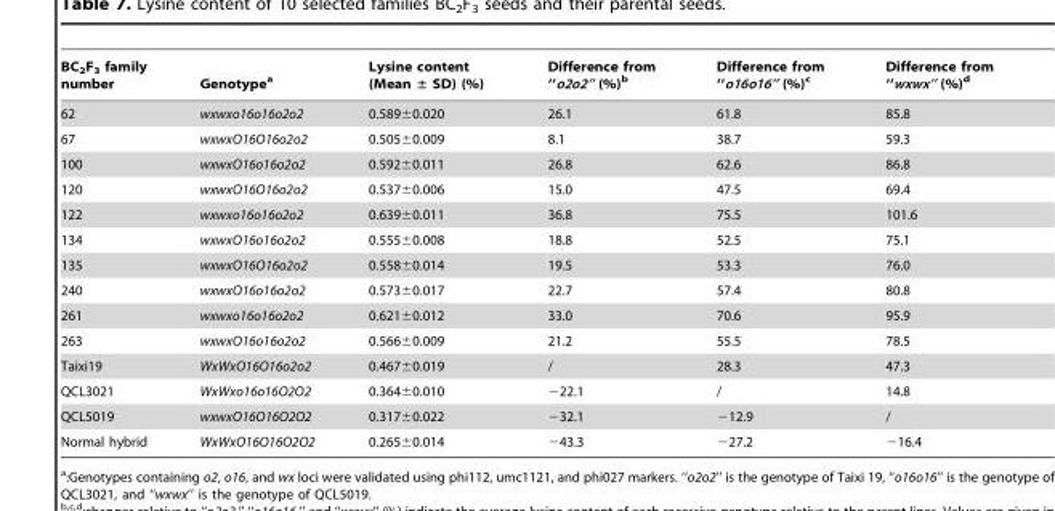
<table><thead><tr><td>BC<sub>2</sub>F<sub>3</sub> family number</td><td>Genotype<sup>a</sup></td><td>Lysine content (Mean ± SD) (%)</td><td>Difference from ‘‘o2o2’’ (%)b</td><td>Difference from ‘‘o16o16’’ (%)c</td><td>Difference from ‘‘wxwx’’ (%)d</td></tr></thead><tbody><tr><td>62</td><td>wxwxo16o16o2o2</td><td>0.589±0.020</td><td>26.1</td><td>61.8</td><td>85.8</td></tr><tr><td>67</td><td>wxwxO16O16o2o2</td><td>0.505±0.009</td><td>8.1</td><td>38.7</td><td>59.3</td></tr><tr><td>100</td><td>wxwxO16o16o2o2</td><td>0.592±0.011</td><td>26.8</td><td>62.6</td><td>86.8</td></tr><tr><td>120</td><td>wxwxO16O16o2o2</td><td>0.537±0.006</td><td>15.0</td><td>47.5</td><td>69.4</td></tr><tr><td>122</td><td>wxwxo16o16o2o2</td><td>0.639±0.011</td><td>36.8</td><td>75.5</td><td>101.6</td></tr><tr><td>134</td><td>wxwxO16o16o2o2</td><td>0.555±0.008</td><td>18.8</td><td>52.5</td><td>75.1</td></tr><tr><td>135</td><td>wxwxO16O16o2o2</td><td>0.558±0.014</td><td>19.5</td><td>53.3</td><td>76.0</td></tr><tr><td>240</td><td>wxwxO16o16o2o2</td><td>0.573±0.017</td><td>22.7</td><td>57.4</td><td>80.8</td></tr><tr><td>261</td><td>wxwxo16o16o2o2</td><td>0.621±0.012</td><td>33.0</td><td>70.6</td><td>95.9</td></tr><tr><td>263</td><td>wxwxO16o16o2o2</td><td>0.566±0.009</td><td>21.2</td><td>55.5</td><td>78.5</td></tr><tr><td>Taixi19</td><td>WxWxO16O16o2o2</td><td>0.467±0.019</td><td>/</td><td>28.3</td><td>47.3</td></tr><tr><td>QCL3021</td><td>WxWxo16o16O2O2</td><td>0.364±0.010</td><td>−22.1</td><td>/</td><td>14.8</td></tr><tr><td>QCL5019</td><td>wxwxO16O16O2O2</td><td>0.317±0.022</td><td>−32.1</td><td>−12.9</td><td>/</td></tr><tr><td>Normal hybrid</td><td>WxWxO16O16O2O2</td><td>0.265±0.014</td><td>−43.3</td><td>−27.2</td><td>−16.4</td></tr></tbody></table>